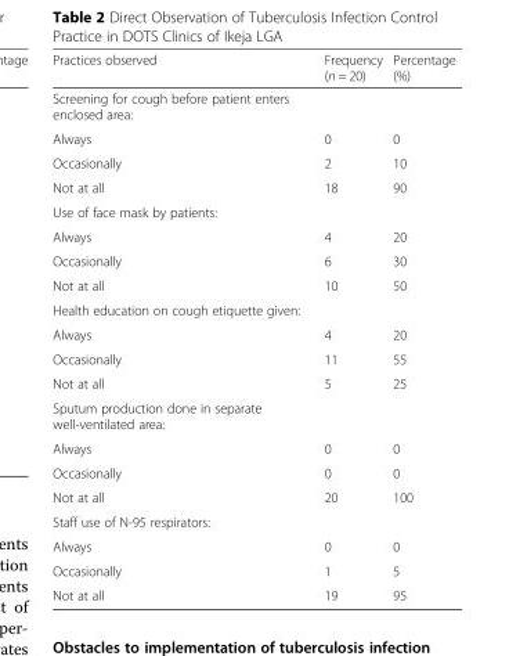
<table><thead><tr><td>Practices observed</td><td>Frequency (n = 20)</td><td>Percentage (%)</td></tr></thead><tbody><tr><td colspan="3">Screening for cough before patient enters enclosed area:</td></tr><tr><td>Always</td><td>0</td><td>0</td></tr><tr><td>Occasionally</td><td>2</td><td>10</td></tr><tr><td>Not at all</td><td>18</td><td>90</td></tr><tr><td colspan="3">Use of face mask by patients:</td></tr><tr><td>Always</td><td>4</td><td>20</td></tr><tr><td>Occasionally</td><td>6</td><td>30</td></tr><tr><td>Not at all</td><td>10</td><td>50</td></tr><tr><td colspan="3">Health education on cough etiquette given:</td></tr><tr><td>Always</td><td>4</td><td>20</td></tr><tr><td>Occasionally</td><td>11</td><td>55</td></tr><tr><td>Not at all</td><td>5</td><td>25</td></tr><tr><td colspan="3">Sputum production done in separate well-ventilated area:</td></tr><tr><td>Always</td><td>0</td><td>0</td></tr><tr><td>Occasionally</td><td>0</td><td>0</td></tr><tr><td>Not at all</td><td>20</td><td>100</td></tr><tr><td colspan="3">Staff use of N-95 respirators:</td></tr><tr><td>Always</td><td>0</td><td>0</td></tr><tr><td>Occasionally</td><td>1</td><td>5</td></tr><tr><td>Not at all</td><td>19</td><td>95</td></tr></tbody></table>